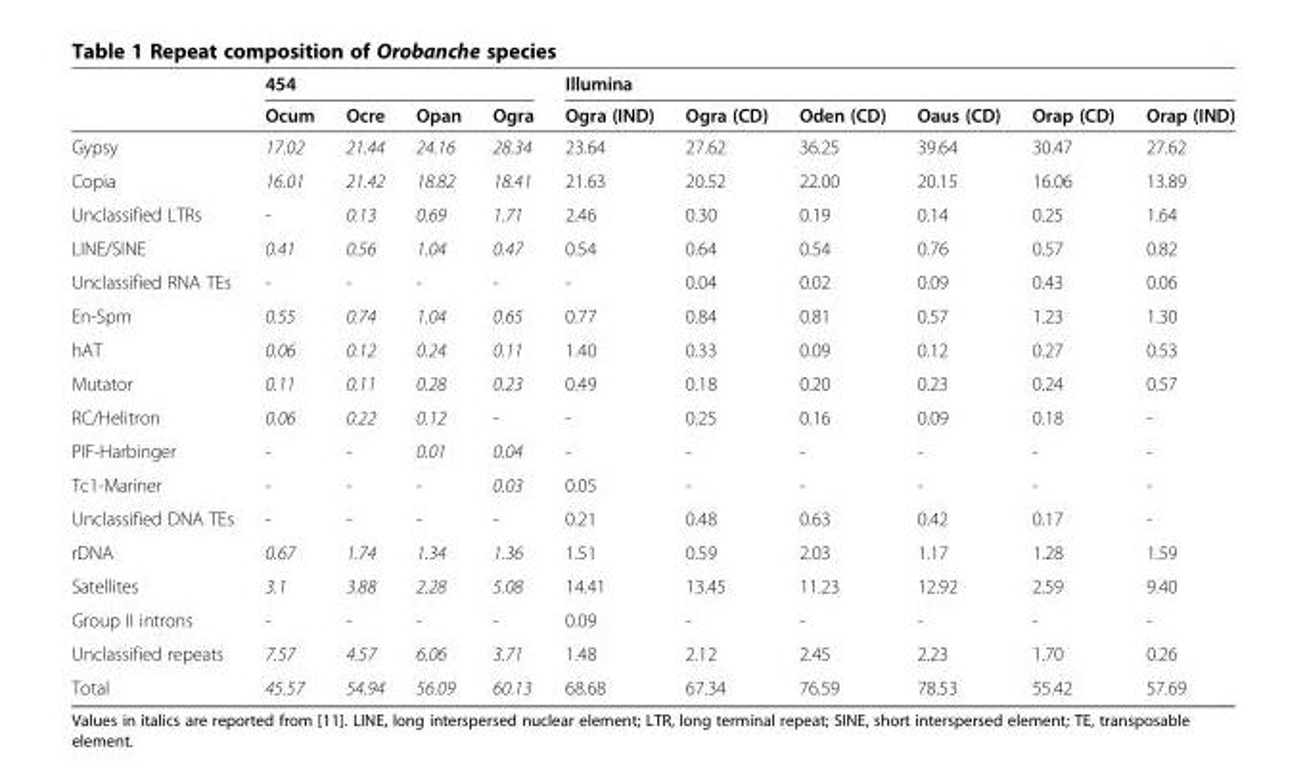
<table><thead><tr><td rowspan="2"></td><td colspan="4">454</td><td colspan="6">Illumina</td></tr><tr><td>Ocum</td><td>Ocre</td><td>Opan</td><td>Ogra</td><td>Ogra (IND)</td><td>Ogra (CD)</td><td>Oden (CD)</td><td>Oaus (CD)</td><td>Orap (CD)</td><td>Orap (IND)</td></tr></thead><tbody><tr><td>Gypsy</td><td>17.02</td><td>21.44</td><td>24.16</td><td>28.34</td><td>23.64</td><td>27.62</td><td>36.25</td><td>39.64</td><td>30.47</td><td>27.62</td></tr><tr><td>Copia</td><td>16.01</td><td>21.42</td><td>18.82</td><td>18.41</td><td>21.63</td><td>20.52</td><td>22.00</td><td>20.15</td><td>16.06</td><td>13.89</td></tr><tr><td>Unclassified LTRs</td><td>-</td><td>0.13</td><td>0.69</td><td>1.71</td><td>2.46</td><td>0.30</td><td>0.19</td><td>0.14</td><td>0.25</td><td>1.64</td></tr><tr><td>LINE/SINE</td><td>0.41</td><td>0.56</td><td>1.04</td><td>0.47</td><td>0.54</td><td>0.64</td><td>0.54</td><td>0.76</td><td>0.57</td><td>0.82</td></tr><tr><td>Unclassified RNA TEs</td><td>-</td><td>-</td><td>-</td><td>-</td><td>-</td><td>0.04</td><td>0.02</td><td>0.09</td><td>0.43</td><td>0.06</td></tr><tr><td>En-Spm</td><td>0.55</td><td>0.74</td><td>1.04</td><td>0.65</td><td>0.77</td><td>0.84</td><td>0.81</td><td>0.57</td><td>1.23</td><td>1.30</td></tr><tr><td>hAT</td><td>0.06</td><td>0.12</td><td>0.24</td><td>0.11</td><td>1.40</td><td>0.33</td><td>0.09</td><td>0.12</td><td>0.27</td><td>0.53</td></tr><tr><td>Mutator</td><td>0.11</td><td>0.11</td><td>0.28</td><td>0.23</td><td>0.49</td><td>0.18</td><td>0.20</td><td>0.23</td><td>0.24</td><td>0.57</td></tr><tr><td>RC/Helitron</td><td>0.06</td><td>0.22</td><td>0.12</td><td>-</td><td>-</td><td>0.25</td><td>0.16</td><td>0.09</td><td>0.18</td><td>-</td></tr><tr><td>PIF-Harbinger</td><td>-</td><td>-</td><td>0.01</td><td>0.04</td><td>-</td><td>-</td><td>-</td><td>-</td><td>-</td><td>-</td></tr><tr><td>Tc1-Mariner</td><td>-</td><td>-</td><td>-</td><td>0.03</td><td>0.05</td><td>-</td><td>-</td><td>-</td><td>-</td><td>-</td></tr><tr><td>Unclassified DNA TEs</td><td>-</td><td>-</td><td>-</td><td>-</td><td>0.21</td><td>0.48</td><td>0.63</td><td>0.42</td><td>0.17</td><td>-</td></tr><tr><td>rDNA</td><td>0.67</td><td>1.74</td><td>1.34</td><td>1.36</td><td>1.51</td><td>0.59</td><td>2.03</td><td>1.17</td><td>1.28</td><td>1.59</td></tr><tr><td>Satellites</td><td>3.1</td><td>3.88</td><td>2.28</td><td>5.08</td><td>14.41</td><td>13.45</td><td>11.23</td><td>12.92</td><td>2.59</td><td>9.40</td></tr><tr><td>Group II introns</td><td>-</td><td>-</td><td>-</td><td>-</td><td>0.09</td><td>-</td><td>-</td><td>-</td><td>-</td><td>-</td></tr><tr><td>Unclassified repeats</td><td>7.57</td><td>4.57</td><td>6.06</td><td>3.71</td><td>1.48</td><td>2.12</td><td>2.45</td><td>2.23</td><td>1.70</td><td>0.26</td></tr><tr><td>Total</td><td>45.57</td><td>54.94</td><td>56.09</td><td>60.13</td><td>68.68</td><td>67.34</td><td>76.59</td><td>78.53</td><td>55.42</td><td>57.69</td></tr></tbody></table>